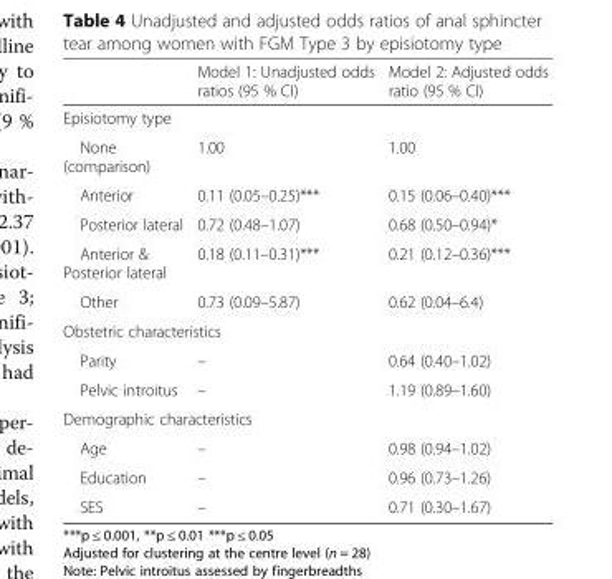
<table><thead><tr><td></td><td>Model 1: Unadjusted odds ratios (95 % CI)</td><td>Model 2: Adjusted odds ratio (95 % CI)</td></tr></thead><tbody><tr><td colspan="3">Episiotomy type</td></tr><tr><td>None (comparison)</td><td>1.00</td><td>1.00</td></tr><tr><td>Anterior</td><td>0.11 (0.05–0.25)***</td><td>0.15 (0.06–0.40)***</td></tr><tr><td>Posterior lateral</td><td>0.72 (0.48–1.07)</td><td>0.68 (0.50–0.94)*</td></tr><tr><td>Anterior &amp; Posterior lateral</td><td>0.18 (0.11–0.31)***</td><td>0.21 (0.12–0.36)***</td></tr><tr><td>Other</td><td>0.73 (0.09–5.87)</td><td>0.62 (0.04–6.4)</td></tr><tr><td colspan="3">Obstetric characteristics</td></tr><tr><td>Parity</td><td>–</td><td>0.64 (0.40–1.02)</td></tr><tr><td>Pelvic introitus</td><td>–</td><td>1.19 (0.89–1.60)</td></tr><tr><td colspan="3">Demographic characteristics</td></tr><tr><td>Age</td><td>–</td><td>0.98 (0.94–1.02)</td></tr><tr><td>Education</td><td>–</td><td>0.96 (0.73–1.26)</td></tr><tr><td>SES</td><td>–</td><td>0.71 (0.30–1.67)</td></tr></tbody></table>